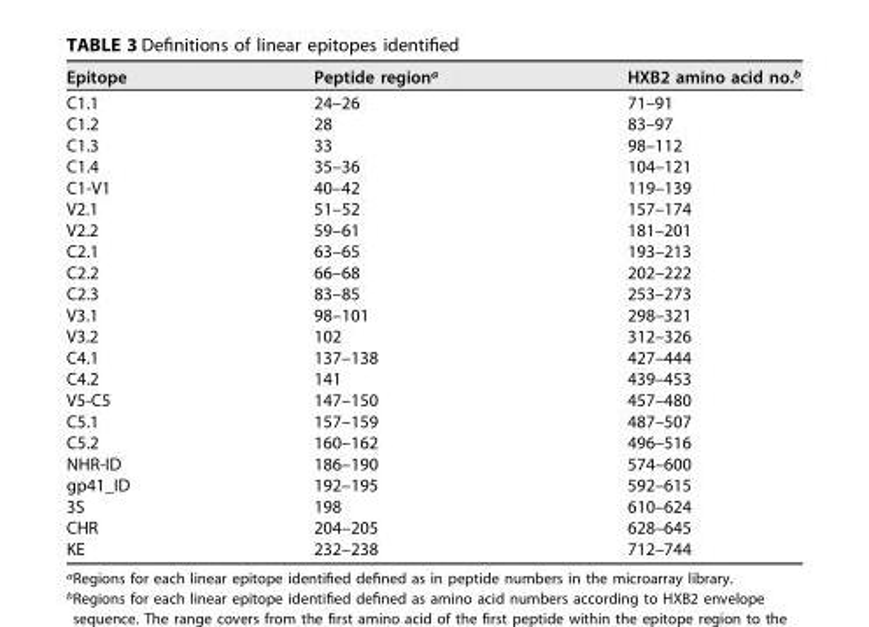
<table><thead><tr><td>Epitope</td><td>Peptide region<sup>a</sup></td><td>HXB2 amino acid no.<sup>b</sup></td></tr></thead><tbody><tr><td>C1.1</td><td>24–26</td><td>71–91</td></tr><tr><td>C1.2</td><td>28</td><td>83–97</td></tr><tr><td>C1.3</td><td>33</td><td>98–112</td></tr><tr><td>C1.4</td><td>35–36</td><td>104–121</td></tr><tr><td>C1-V1</td><td>40–42</td><td>119–139</td></tr><tr><td>V2.1</td><td>51–52</td><td>157–174</td></tr><tr><td>V2.2</td><td>59–61</td><td>181–201</td></tr><tr><td>C2.1</td><td>63–65</td><td>193–213</td></tr><tr><td>C2.2</td><td>66–68</td><td>202–222</td></tr><tr><td>C2.3</td><td>83–85</td><td>253–273</td></tr><tr><td>V3.1</td><td>98–101</td><td>298–321</td></tr><tr><td>V3.2</td><td>102</td><td>312–326</td></tr><tr><td>C4.1</td><td>137–138</td><td>427–444</td></tr><tr><td>C4.2</td><td>141</td><td>439–453</td></tr><tr><td>V5-C5</td><td>147–150</td><td>457–480</td></tr><tr><td>C5.1</td><td>157–159</td><td>487–507</td></tr><tr><td>C5.2</td><td>160–162</td><td>496–516</td></tr><tr><td>NHR-ID</td><td>186–190</td><td>574–600</td></tr><tr><td>gp41_ID</td><td>192–195</td><td>592–615</td></tr><tr><td>3S</td><td>198</td><td>610–624</td></tr><tr><td>CHR</td><td>204–205</td><td>628–645</td></tr><tr><td>KE</td><td>232–238</td><td>712–744</td></tr></tbody></table>